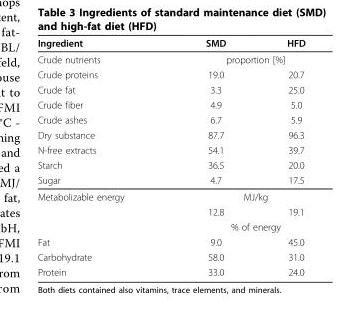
<table><thead><tr><td>Ingredient</td><td>SMD</td><td>HFD</td></tr></thead><tbody><tr><td>Crude nutrients</td><td colspan="2">proportion [%]</td></tr><tr><td>Crude proteins</td><td>19.0</td><td>20.7</td></tr><tr><td>Crude fat</td><td>3.3</td><td>25.0</td></tr><tr><td>Crude fiber</td><td>4.9</td><td>5.0</td></tr><tr><td>Crude ashes</td><td>6.7</td><td>5.9</td></tr><tr><td>Dry substance</td><td>87.7</td><td>96.3</td></tr><tr><td>N-free extracts</td><td>54.1</td><td>39.7</td></tr><tr><td>Starch</td><td>36.5</td><td>20.0</td></tr><tr><td>Sugar</td><td>4.7</td><td>17.5</td></tr><tr><td rowspan="3">Metabolizable energy</td><td colspan="2">MJ/kg</td></tr><tr><td>12.8</td><td>19.1</td></tr><tr><td colspan="2">% of energy</td></tr><tr><td>Fat</td><td>9.0</td><td>45.0</td></tr><tr><td>Carbohydrate</td><td>58.0</td><td>31.0</td></tr><tr><td>Protein</td><td>33.0</td><td>24.0</td></tr></tbody></table>